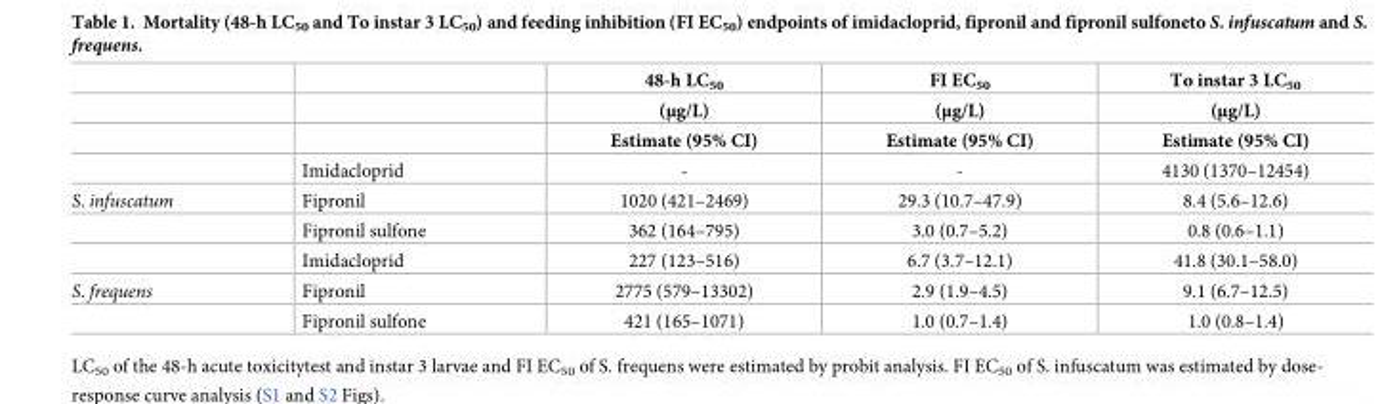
<table><thead><tr><td rowspan="3"></td><td rowspan="3"></td><td rowspan="3">48-h LC<sub>50</sub> (μg/L) Estimate (95% CI)</td><td rowspan="3">FI EC<sub>50</sub> (μg/L) Estimate (95% CI)</td><td rowspan="3">To instar 3 LC<sub>50</sub> (μg/L) Estimate (95% CI)</td></tr><tr></tr><tr></tr></thead><tbody><tr><td></td><td>Imidacloprid</td><td>-</td><td>-</td><td>4130 (1370–12454)</td></tr><tr><td rowspan="3">S. infuscatum</td><td>Fipronil</td><td>1020 (421–2469)</td><td>29.3 (10.7–47.9)</td><td>8.4 (5.6–12.6)</td></tr><tr><td>Fipronil sulfone</td><td>362 (164–795)</td><td>3.0 (0.7–5.2)</td><td>0.8 (0.6–1.1)</td></tr><tr><td>Imidacloprid</td><td>227 (123–516)</td><td>6.7 (3.7–12.1)</td><td>41.8 (30.1–58.0)</td></tr><tr><td rowspan="2">S. frequens</td><td>Fipronil</td><td>2775 (579–13302)</td><td>2.9 (1.9–4.5)</td><td>9.1 (6.7–12.5)</td></tr><tr><td>Fipronil sulfone</td><td>421 (165–1071)</td><td>1.0 (0.7–1.4)</td><td>1.0 (0.8–1.4)</td></tr></tbody></table>